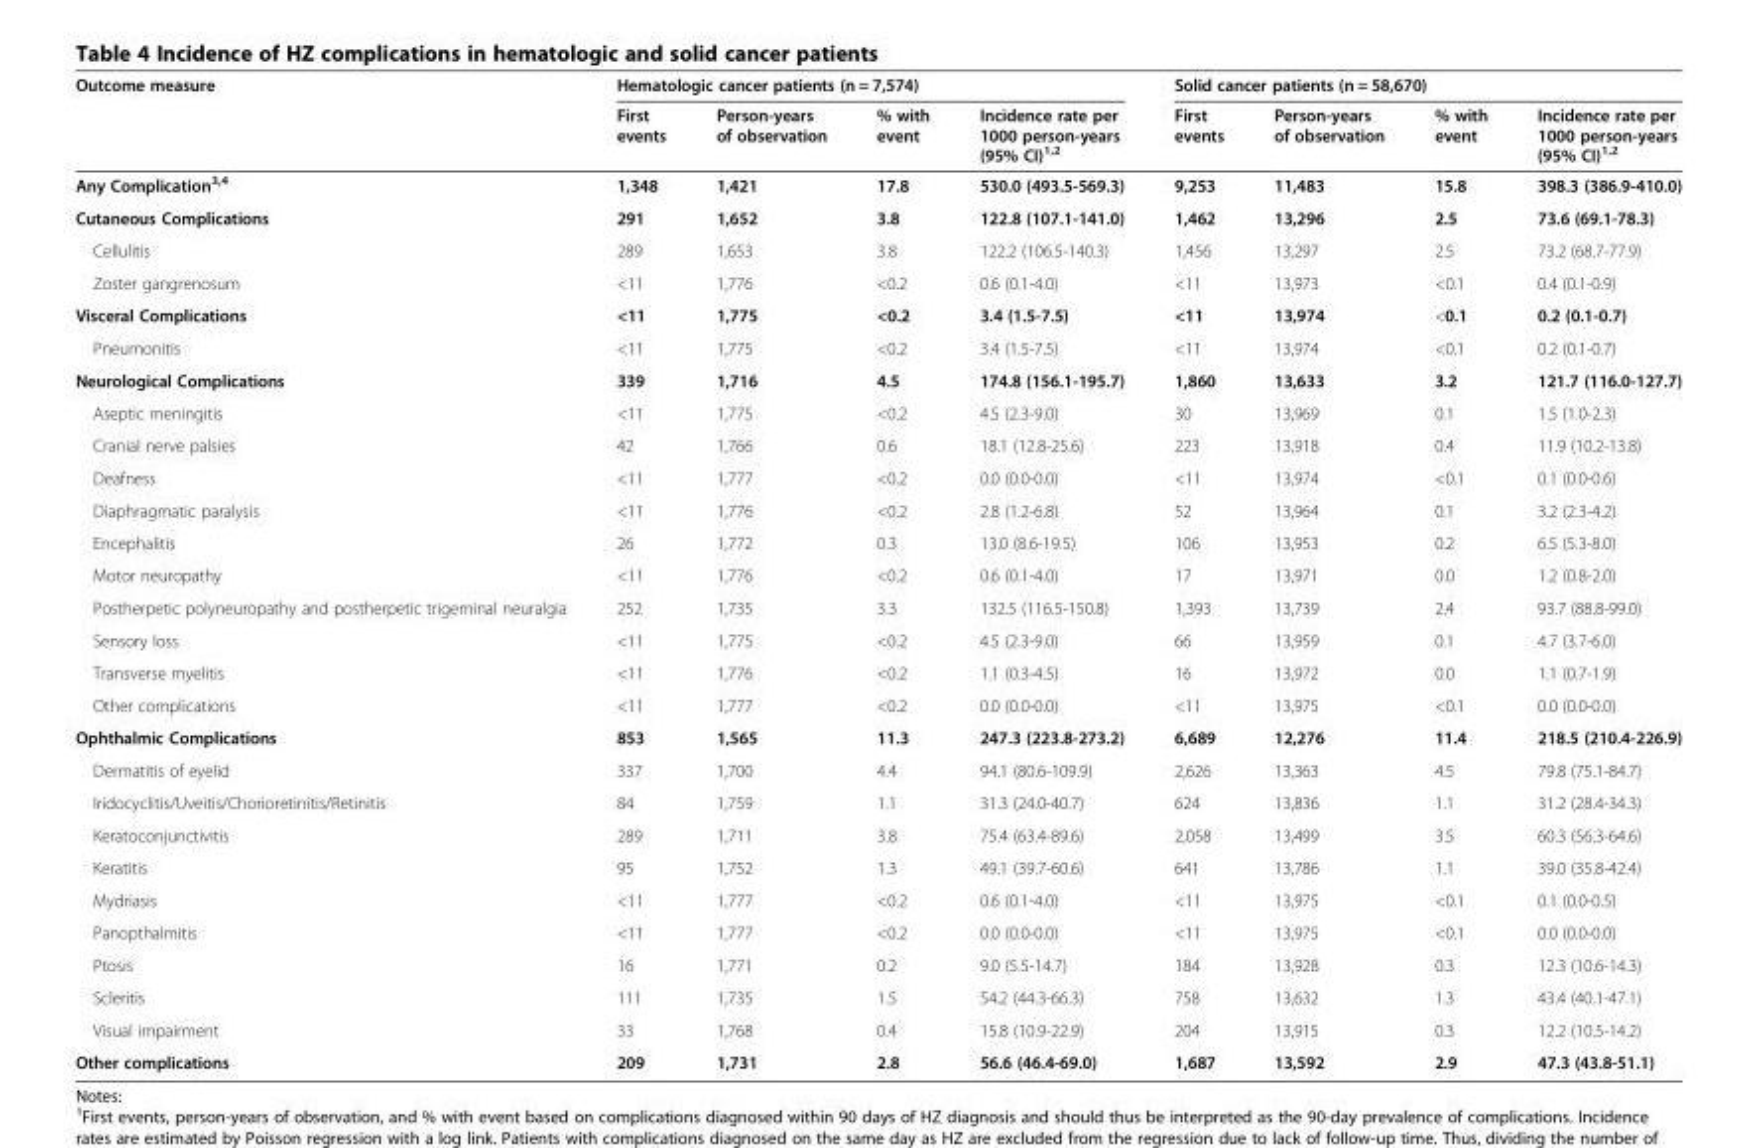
<table><thead><tr><td rowspan="2">Outcome measure</td><td colspan="4">Hematologic cancer patients (n = 7,574)</td><td colspan="4">Solid cancer patients (n = 58,670)</td></tr><tr><td>First events</td><td>Person-years of observation</td><td>% with event</td><td>Incidence rate per 1000 person-years (95% CI)<sup>1,2</sup></td><td>First events</td><td>Person-years of observation</td><td>% with event</td><td>Incidence rate per 1000 person-years (95% CI)<sup>1,2</sup></td></tr></thead><tbody><tr><td>Any Complication<sup>3,4</sup></td><td>1,348</td><td>1,421</td><td>17.8</td><td>530.0 (493.5-569.3)</td><td>9,253</td><td>11,483</td><td>15.8</td><td>398.3 (386.9-410.0)</td></tr><tr><td>Cutaneous Complications</td><td>291</td><td>1,652</td><td>3.8</td><td>122.8 (107.1-141.0)</td><td>1,462</td><td>13,296</td><td>2.5</td><td>73.6 (69.1-78.3)</td></tr><tr><td>Cellulitis</td><td>289</td><td>1,653</td><td>3.8</td><td>122.2 (106.5-140.3)</td><td>1,456</td><td>13,297</td><td>2.5</td><td>73.2 (68.7-77.9)</td></tr><tr><td>Zoster gangrenosum</td><td>&lt;11</td><td>1,776</td><td>&lt;0.2</td><td>0.6 (0.1-4.0)</td><td>&lt;11</td><td>13,973</td><td>&lt;0.1</td><td>0.4 (0.1-0.9)</td></tr><tr><td>Visceral Complications</td><td>&lt;11</td><td>1,775</td><td>&lt;0.2</td><td>3.4 (1.5-7.5)</td><td>&lt;11</td><td>13,974</td><td>&lt;0.1</td><td>0.2 (0.1-0.7)</td></tr><tr><td>Pneumonitis</td><td>&lt;11</td><td>1,775</td><td>&lt;0.2</td><td>3.4 (1.5-7.5)</td><td>&lt;11</td><td>13,974</td><td>&lt;0.1</td><td>0.2 (0.1-0.7)</td></tr><tr><td>Neurological Complications</td><td>339</td><td>1,716</td><td>4.5</td><td>174.8 (156.1-195.7)</td><td>1,860</td><td>13,633</td><td>3.2</td><td>121.7 (116.0-127.7)</td></tr><tr><td>Aseptic meningitis</td><td>&lt;11</td><td>1,775</td><td>&lt;0.2</td><td>4.5 (2.3-9.0)</td><td>30</td><td>13,969</td><td>0.1</td><td>1.5 (1.0-2.3)</td></tr><tr><td>Cranial nerve palsies</td><td>42</td><td>1,766</td><td>0.6</td><td>18.1 (12.8-25.6)</td><td>223</td><td>13,918</td><td>0.4</td><td>11.9 (10.2-13.8)</td></tr><tr><td>Deafness</td><td>&lt;11</td><td>1,777</td><td>&lt;0.2</td><td>0.0 (0.0-0.0)</td><td>&lt;11</td><td>13,974</td><td>&lt;0.1</td><td>0.1 (0.0-0.6)</td></tr><tr><td>Diaphragmatic paralysis</td><td>&lt;11</td><td>1,776</td><td>&lt;0.2</td><td>2.8 (1.2-6.8)</td><td>52</td><td>13,964</td><td>0.1</td><td>3.2 (2.3-4.2)</td></tr><tr><td>Encephalitis</td><td>26</td><td>1,772</td><td>0.3</td><td>13.0 (8.6-19.5)</td><td>106</td><td>13,953</td><td>0.2</td><td>6.5 (5.3-8.0)</td></tr><tr><td>Motor neuropathy</td><td>&lt;11</td><td>1,776</td><td>&lt;0.2</td><td>0.6 (0.1-4.0)</td><td>17</td><td>13,971</td><td>0.0</td><td>1.2 (0.8-2.0)</td></tr><tr><td>Postherpetic polyneuropathy and postherpetic trigeminal neuralgia</td><td>252</td><td>1,735</td><td>3.3</td><td>132.5 (116.5-150.8)</td><td>1,393</td><td>13,739</td><td>2.4</td><td>93.7 (88.8-99.0)</td></tr><tr><td>Sensory loss</td><td>&lt;11</td><td>1,775</td><td>&lt;0.2</td><td>4.5 (2.3-9.0)</td><td>66</td><td>13,959</td><td>0.1</td><td>4.7 (3.7-6.0)</td></tr><tr><td>Transverse myelitis</td><td>&lt;11</td><td>1,776</td><td>&lt;0.2</td><td>1.1 (0.3-4.5)</td><td>16</td><td>13,972</td><td>0.0</td><td>1.1 (0.7-1.9)</td></tr><tr><td>Other complications</td><td>&lt;11</td><td>1,777</td><td>&lt;0.2</td><td>0.0 (0.0-0.0)</td><td>&lt;11</td><td>13,975</td><td>&lt;0.1</td><td>0.0 (0.0-0.0)</td></tr><tr><td>Ophthalmic Complications</td><td>853</td><td>1,565</td><td>11.3</td><td>247.3 (223.8-273.2)</td><td>6,689</td><td>12,276</td><td>11.4</td><td>218.5 (210.4-226.9)</td></tr><tr><td>Dermatitis of eyelid</td><td>337</td><td>1,700</td><td>4.4</td><td>94.1 (80.6-109.9)</td><td>2,626</td><td>13,363</td><td>4.5</td><td>79.8 (75.1-84.7)</td></tr><tr><td>Iridocyclitis/Uveitis/Chorioretinitis/Retinitis</td><td>84</td><td>1,759</td><td>1.1</td><td>31.3 (24.0-40.7)</td><td>624</td><td>13,836</td><td>1.1</td><td>31.2 (28.4-34.3)</td></tr><tr><td>Keratoconjunctivitis</td><td>289</td><td>1,711</td><td>3.8</td><td>75.4 (63.4-89.6)</td><td>2,058</td><td>13,499</td><td>3.5</td><td>60.3 (56.3-64.6)</td></tr><tr><td>Keratitis</td><td>95</td><td>1,752</td><td>1.3</td><td>49.1 (39.7-60.6)</td><td>641</td><td>13,786</td><td>1.1</td><td>39.0 (35.8-42.4)</td></tr><tr><td>Mydriasis</td><td>&lt;11</td><td>1,777</td><td>&lt;0.2</td><td>0.6 (0.1-4.0)</td><td>&lt;11</td><td>13,975</td><td>&lt;0.1</td><td>0.1 (0.0-0.5)</td></tr><tr><td>Panopthalmitis</td><td>&lt;11</td><td>1,777</td><td>&lt;0.2</td><td>0.0 (0.0-0.0)</td><td>&lt;11</td><td>13,975</td><td>&lt;0.1</td><td>0.0 (0.0-0.0)</td></tr><tr><td>Ptosis</td><td>16</td><td>1,771</td><td>0.2</td><td>9.0 (5.5-14.7)</td><td>184</td><td>13,928</td><td>0.3</td><td>12.3 (10.6-14.3)</td></tr><tr><td>Scleritis</td><td>111</td><td>1,735</td><td>1.5</td><td>54.2 (44.3-66.3)</td><td>758</td><td>13,632</td><td>1.3</td><td>43.4 (40.1-47.1)</td></tr><tr><td>Visual impairment</td><td>33</td><td>1,768</td><td>0.4</td><td>15.8 (10.9-22.9)</td><td>204</td><td>13,915</td><td>0.3</td><td>12.2 (10.5-14.2)</td></tr><tr><td>Other complications</td><td>209</td><td>1,731</td><td>2.8</td><td>56.6 (46.4-69.0)</td><td>1,687</td><td>13,592</td><td>2.9</td><td>47.3 (43.8-51.1)</td></tr></tbody></table>